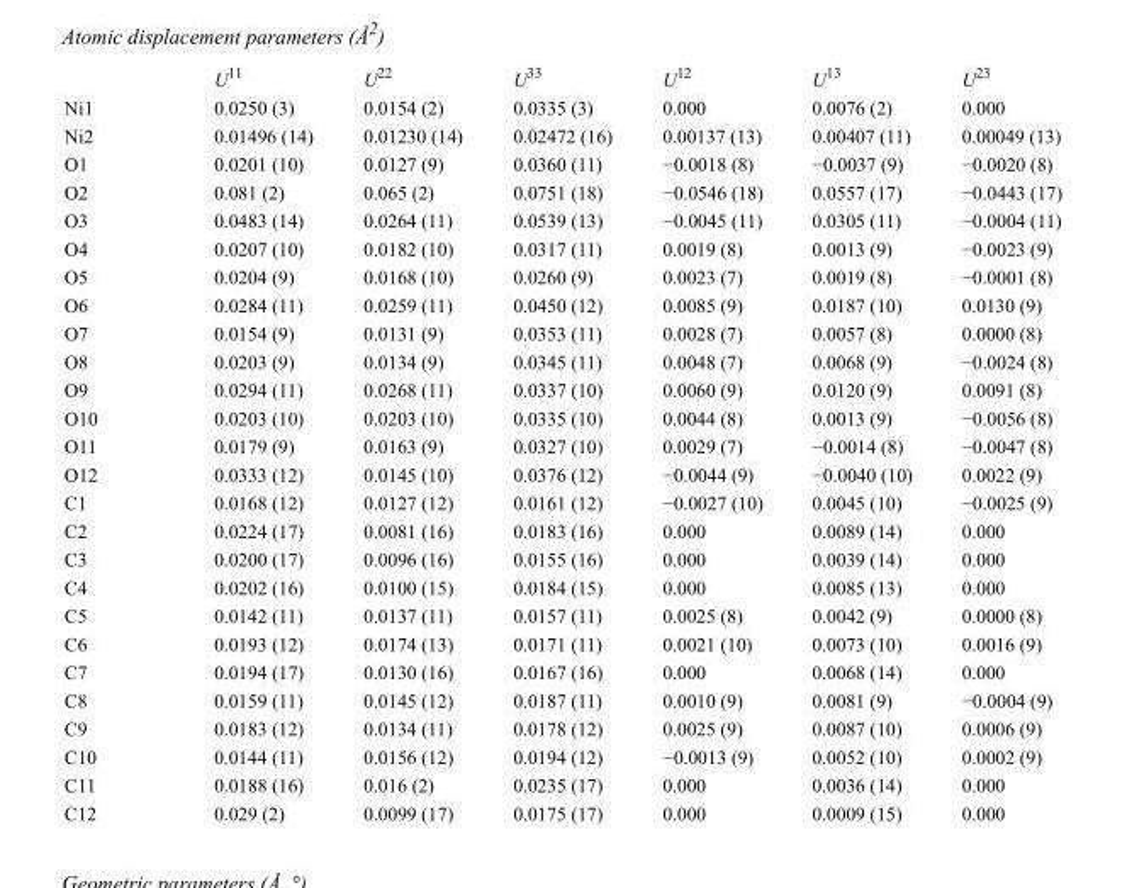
<table><thead><tr><td></td><td>U<sup>11</sup></td><td>U<sup>22</sup></td><td>U<sup>33</sup></td><td>U<sup>12</sup></td><td>U<sup>13</sup></td><td>U<sup>23</sup></td></tr></thead><tbody><tr><td>Ni1</td><td>0.0250 (3)</td><td>0.0154 (2)</td><td>0.0335 (3)</td><td>0.000</td><td>0.0076 (2)</td><td>0.000</td></tr><tr><td>Ni2</td><td>0.01496 (14)</td><td>0.01230 (14)</td><td>0.02472 (16)</td><td>0.00137 (13)</td><td>0.00407 (11)</td><td>0.00049 (13)</td></tr><tr><td>O1</td><td>0.0201 (10)</td><td>0.0127 (9)</td><td>0.0360 (11)</td><td>−0.0018 (8)</td><td>−0.0037 (9)</td><td>−0.0020 (8)</td></tr><tr><td>O2</td><td>0.081 (2)</td><td>0.065 (2)</td><td>0.0751 (18)</td><td>−0.0546 (18)</td><td>0.0557 (17)</td><td>−0.0443 (17)</td></tr><tr><td>O3</td><td>0.0483 (14)</td><td>0.0264 (11)</td><td>0.0539 (13)</td><td>−0.0045 (11)</td><td>0.0305 (11)</td><td>−0.0004 (11)</td></tr><tr><td>O4</td><td>0.0207 (10)</td><td>0.0182 (10)</td><td>0.0317 (11)</td><td>0.0019 (8)</td><td>0.0013 (9)</td><td>−0.0023 (9)</td></tr><tr><td>O5</td><td>0.0204 (9)</td><td>0.0168 (10)</td><td>0.0260 (9)</td><td>0.0023 (7)</td><td>0.0019 (8)</td><td>−0.0001 (8)</td></tr><tr><td>O6</td><td>0.0284 (11)</td><td>0.0259 (11)</td><td>0.0450 (12)</td><td>0.0085 (9)</td><td>0.0187 (10)</td><td>0.0130 (9)</td></tr><tr><td>O7</td><td>0.0154 (9)</td><td>0.0131 (9)</td><td>0.0353 (11)</td><td>0.0028 (7)</td><td>0.0057 (8)</td><td>0.0000 (8)</td></tr><tr><td>O8</td><td>0.0203 (9)</td><td>0.0134 (9)</td><td>0.0345 (11)</td><td>0.0048 (7)</td><td>0.0068 (9)</td><td>−0.0024 (8)</td></tr><tr><td>O9</td><td>0.0294 (11)</td><td>0.0268 (11)</td><td>0.0337 (10)</td><td>0.0060 (9)</td><td>0.0120 (9)</td><td>0.0091 (8)</td></tr><tr><td>O10</td><td>0.0203 (10)</td><td>0.0203 (10)</td><td>0.0335 (10)</td><td>0.0044 (8)</td><td>0.0013 (9)</td><td>−0.0056 (8)</td></tr><tr><td>O11</td><td>0.0179 (9)</td><td>0.0163 (9)</td><td>0.0327 (10)</td><td>0.0029 (7)</td><td>−0.0014 (8)</td><td>−0.0047 (8)</td></tr><tr><td>O12</td><td>0.0333 (12)</td><td>0.0145 (10)</td><td>0.0376 (12)</td><td>−0.0044 (9)</td><td>−0.0040 (10)</td><td>0.0022 (9)</td></tr><tr><td>C1</td><td>0.0168 (12)</td><td>0.0127 (12)</td><td>0.0161 (12)</td><td>−0.0027 (10)</td><td>0.0045 (10)</td><td>−0.0025 (9)</td></tr><tr><td>C2</td><td>0.0224 (17)</td><td>0.0081 (16)</td><td>0.0183 (16)</td><td>0.000</td><td>0.0089 (14)</td><td>0.000</td></tr><tr><td>C3</td><td>0.0200 (17)</td><td>0.0096 (16)</td><td>0.0155 (16)</td><td>0.000</td><td>0.0039 (14)</td><td>0.000</td></tr><tr><td>C4</td><td>0.0202 (16)</td><td>0.0100 (15)</td><td>0.0184 (15)</td><td>0.000</td><td>0.0085 (13)</td><td>0.000</td></tr><tr><td>C5</td><td>0.0142 (11)</td><td>0.0137 (11)</td><td>0.0157 (11)</td><td>0.0025 (8)</td><td>0.0042 (9)</td><td>0.0000 (8)</td></tr><tr><td>C6</td><td>0.0193 (12)</td><td>0.0174 (13)</td><td>0.0171 (11)</td><td>0.0021 (10)</td><td>0.0073 (10)</td><td>0.0016 (9)</td></tr><tr><td>C7</td><td>0.0194 (17)</td><td>0.0130 (16)</td><td>0.0167 (16)</td><td>0.000</td><td>0.0068 (14)</td><td>0.000</td></tr><tr><td>C8</td><td>0.0159 (11)</td><td>0.0145 (12)</td><td>0.0187 (11)</td><td>0.0010 (9)</td><td>0.0081 (9)</td><td>−0.0004 (9)</td></tr><tr><td>C9</td><td>0.0183 (12)</td><td>0.0134 (11)</td><td>0.0178 (12)</td><td>0.0025 (9)</td><td>0.0087 (10)</td><td>0.0006 (9)</td></tr><tr><td>C10</td><td>0.0144 (11)</td><td>0.0156 (12)</td><td>0.0194 (12)</td><td>−0.0013 (9)</td><td>0.0052 (10)</td><td>0.0002 (9)</td></tr><tr><td>C11</td><td>0.0188 (16)</td><td>0.016 (2)</td><td>0.0235 (17)</td><td>0.000</td><td>0.0036 (14)</td><td>0.000</td></tr><tr><td>C12</td><td>0.029 (2)</td><td>0.0099 (17)</td><td>0.0175 (17)</td><td>0.000</td><td>0.0009 (15)</td><td>0.000</td></tr></tbody></table>